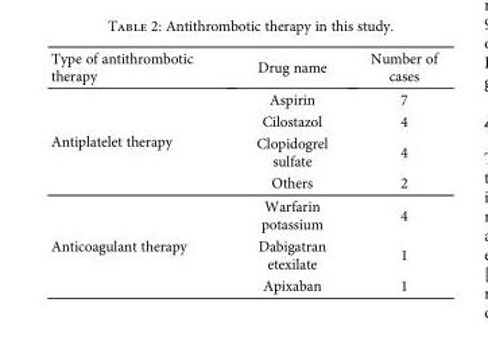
<table><thead><tr><td>Type of antithrombotic therapy</td><td>Drug name</td><td>Number of cases</td></tr></thead><tbody><tr><td rowspan="4">Antiplatelet therapy</td><td>Aspirin</td><td>7</td></tr><tr><td>Cilostazol</td><td>4</td></tr><tr><td>Clopidogrel sulfate</td><td>4</td></tr><tr><td>Others</td><td>2</td></tr><tr><td rowspan="3">Anticoagulant therapy</td><td>Warfarin potassium</td><td>4</td></tr><tr><td>Dabigatran etexilate</td><td>1</td></tr><tr><td>Apixaban</td><td>1</td></tr></tbody></table>